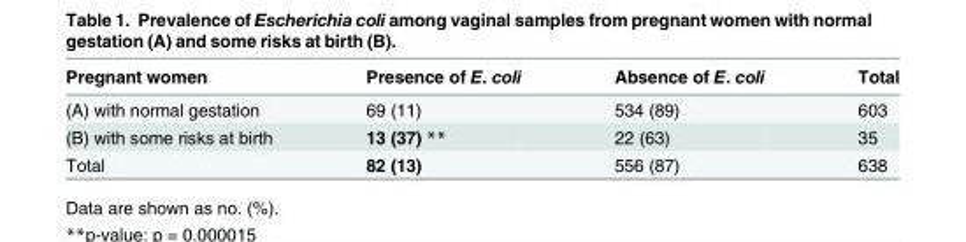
<table><thead><tr><td>Pregnant women</td><td>Presence of E. coli</td><td>Absence of E. coli</td><td>Total</td></tr></thead><tbody><tr><td>(A) with normal gestation</td><td>69 (11)</td><td>534 (89)</td><td>603</td></tr><tr><td>(B) with some risks at birth</td><td>13 (37) **</td><td>22 (63)</td><td>35</td></tr><tr><td>Total</td><td>82 (13)</td><td>556 (87)</td><td>638</td></tr></tbody></table>